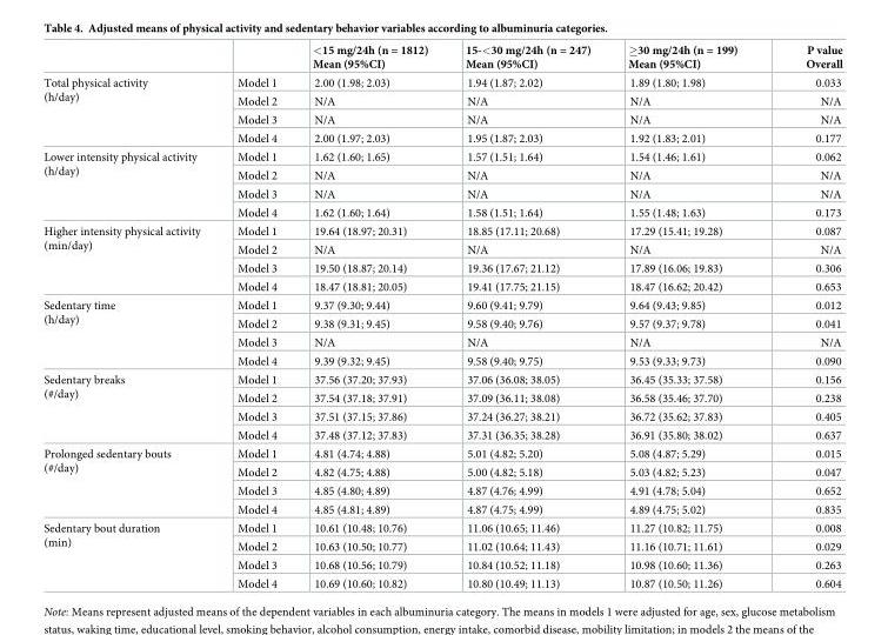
<table><thead><tr><td></td><td></td><td>&lt;15 mg/24h (n = 1812) Mean (95%CI)</td><td>15-&lt;30 mg/24h (n = 247) Mean (95%CI)</td><td>≥30 mg/24h (n = 199) Mean (95%CI)</td><td>P value Overall</td></tr></thead><tbody><tr><td rowspan="4">Total physical activity (h/day)</td><td>Model 1</td><td>2.00 (1.98; 2.03)</td><td>1.94 (1.87; 2.02)</td><td>1.89 (1.80; 1.98)</td><td>0.033</td></tr><tr><td>Model 2</td><td>N/A</td><td>N/A</td><td>N/A</td><td>N/A</td></tr><tr><td>Model 3</td><td>N/A</td><td>N/A</td><td>N/A</td><td>N/A</td></tr><tr><td>Model 4</td><td>2.00 (1.97; 2.03)</td><td>1.95 (1.87; 2.03)</td><td>1.92 (1.83; 2.01)</td><td>0.177</td></tr><tr><td rowspan="4">Lower intensity physical activity (h/day)</td><td>Model 1</td><td>1.62 (1.60; 1.65)</td><td>1.57 (1.51; 1.64)</td><td>1.54 (1.46; 1.61)</td><td>0.062</td></tr><tr><td>Model 2</td><td>N/A</td><td>N/A</td><td>N/A</td><td>N/A</td></tr><tr><td>Model 3</td><td>N/A</td><td>N/A</td><td>N/A</td><td>N/A</td></tr><tr><td>Model 4</td><td>1.62 (1.60; 1.64)</td><td>1.58 (1.51; 1.64)</td><td>1.55 (1.48; 1.63)</td><td>0.173</td></tr><tr><td rowspan="4">Higher intensity physical activity (min/day)</td><td>Model 1</td><td>19.64 (18.97; 20.31)</td><td>18.85 (17.11; 20.68)</td><td>17.29 (15.41; 19.28)</td><td>0.087</td></tr><tr><td>Model 2</td><td>N/A</td><td>N/A</td><td>N/A</td><td>N/A</td></tr><tr><td>Model 3</td><td>19.50 (18.87; 20.14)</td><td>19.36 (17.67; 21.12)</td><td>17.89 (16.06; 19.83)</td><td>0.306</td></tr><tr><td>Model 4</td><td>18.47 (18.81; 20.05)</td><td>19.41 (17.75; 21.15)</td><td>18.47 (16.62; 20.42)</td><td>0.653</td></tr><tr><td rowspan="4">Sedentary time (h/day)</td><td>Model 1</td><td>9.37 (9.30; 9.44)</td><td>9.60 (9.41; 9.79)</td><td>9.64 (9.43; 9.85)</td><td>0.012</td></tr><tr><td>Model 2</td><td>9.38 (9.31; 9.45)</td><td>9.58 (9.40; 9.76)</td><td>9.57 (9.37; 9.78)</td><td>0.041</td></tr><tr><td>Model 3</td><td>N/A</td><td>N/A</td><td>N/A</td><td>N/A</td></tr><tr><td>Model 4</td><td>9.39 (9.32; 9.45)</td><td>9.58 (9.40; 9.75)</td><td>9.53 (9.33; 9.73)</td><td>0.090</td></tr><tr><td rowspan="4">Sedentary breaks (#/day)</td><td>Model 1</td><td>37.56 (37.20; 37.93)</td><td>37.06 (36.08; 38.05)</td><td>36.45 (35.33; 37.58)</td><td>0.156</td></tr><tr><td>Model 2</td><td>37.54 (37.18; 37.91)</td><td>37.09 (36.11; 38.08)</td><td>36.58 (35.46; 37.70)</td><td>0.238</td></tr><tr><td>Model 3</td><td>37.51 (37.15; 37.86)</td><td>37.24 (36.27; 38.21)</td><td>36.72 (35.62; 37.83)</td><td>0.405</td></tr><tr><td>Model 4</td><td>37.48 (37.12; 37.83)</td><td>37.31 (36.35; 38.28)</td><td>36.91 (35.80; 38.02)</td><td>0.637</td></tr><tr><td rowspan="4">Prolonged sedentary bouts (#/day)</td><td>Model 1</td><td>4.81 (4.74; 4.88)</td><td>5.01 (4.82; 5.20)</td><td>5.08 (4.87; 5.29)</td><td>0.015</td></tr><tr><td>Model 2</td><td>4.82 (4.75; 4.88)</td><td>5.00 (4.82; 5.18)</td><td>5.03 (4.82; 5.23)</td><td>0.047</td></tr><tr><td>Model 3</td><td>4.85 (4.80; 4.89)</td><td>4.87 (4.76; 4.99)</td><td>4.91 (4.78; 5.04)</td><td>0.652</td></tr><tr><td>Model 4</td><td>4.85 (4.81; 4.89)</td><td>4.87 (4.75; 4.99)</td><td>4.89 (4.75; 5.02)</td><td>0.835</td></tr><tr><td rowspan="4">Sedentary bout duration (min)</td><td>Model 1</td><td>10.61 (10.48; 10.76)</td><td>11.06 (10.65; 11.46)</td><td>11.27 (10.82; 11.75)</td><td>0.008</td></tr><tr><td>Model 2</td><td>10.63 (10.50; 10.77)</td><td>11.02 (10.64; 11.43)</td><td>11.16 (10.71; 11.61)</td><td>0.029</td></tr><tr><td>Model 3</td><td>10.68 (10.56; 10.79)</td><td>10.84 (10.52; 11.18)</td><td>10.98 (10.60; 11.36)</td><td>0.263</td></tr><tr><td>Model 4</td><td>10.69 (10.60; 10.82)</td><td>10.80 (10.49; 11.13)</td><td>10.87 (10.50; 11.26)</td><td>0.604</td></tr></tbody></table>